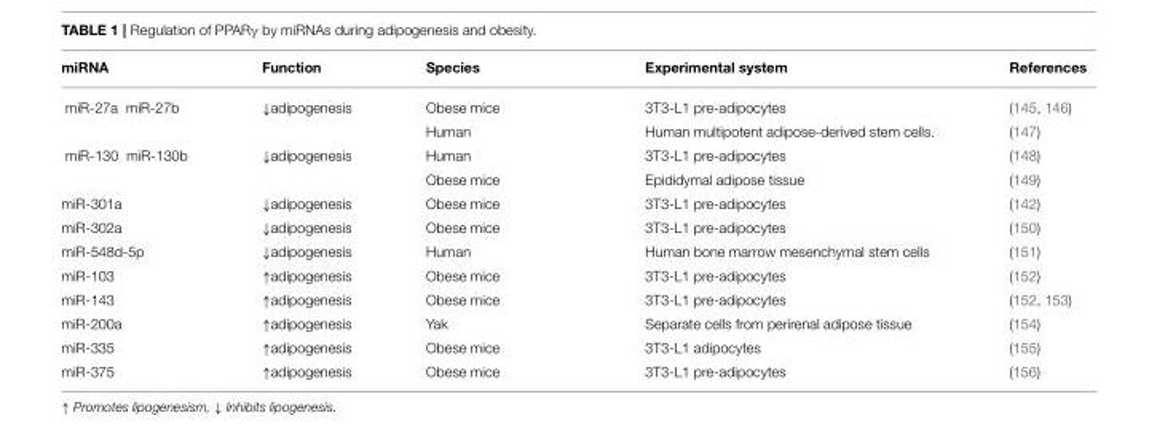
<table><thead><tr><td>miRNA</td><td>Function</td><td>Species</td><td>Experimental system</td><td>References</td></tr></thead><tbody><tr><td rowspan="2">miR-27a miR-27b</td><td>↓adipogenesis</td><td>Obese mice</td><td>3T3-L1 pre-adipocytes</td><td>(145, 146)</td></tr><tr><td></td><td>Human</td><td>Human multipotent adipose-derived stem cells.</td><td>(147)</td></tr><tr><td rowspan="2">miR-130 miR-130b</td><td>↓adipogenesis</td><td>Human</td><td>3T3-L1 pre-adipocytes</td><td>(148)</td></tr><tr><td></td><td>Obese mice</td><td>Epididymal adipose tissue</td><td>(149)</td></tr><tr><td>miR-301a</td><td>↓adipogenesis</td><td>Obese mice</td><td>3T3-L1 pre-adipocytes</td><td>(142)</td></tr><tr><td>miR-302a</td><td>↓adipogenesis</td><td>Obese mice</td><td>3T3-L1 pre-adipocytes</td><td>(150)</td></tr><tr><td>miR-548d-5p</td><td>↓adipogenesis</td><td>Human</td><td>Human bone marrow mesenchymal stem cells</td><td>(151)</td></tr><tr><td>miR-103</td><td>↑adipogenesis</td><td>Obese mice</td><td>3T3-L1 pre-adipocytes</td><td>(152)</td></tr><tr><td>miR-143</td><td>↑adipogenesis</td><td>Obese mice</td><td>3T3-L1 pre-adipocytes</td><td>(152, 153)</td></tr><tr><td>miR-200a</td><td>↑adipogenesis</td><td>Yak</td><td>Separate cells from perirenal adipose tissue</td><td>(154)</td></tr><tr><td>miR-335</td><td>↑adipogenesis</td><td>Obese mice</td><td>3T3-L1 adipocytes</td><td>(155)</td></tr><tr><td>miR-375</td><td>↑adipogenesis</td><td>Obese mice</td><td>3T3-L1 pre-adipocytes</td><td>(156)</td></tr></tbody></table>